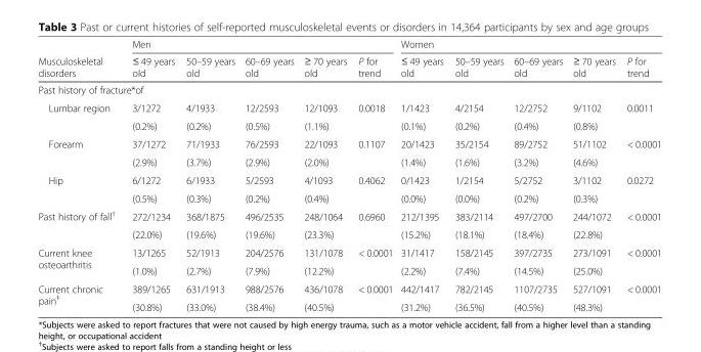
<table><thead><tr><td rowspan="2">Musculoskeletal disorders</td><td colspan="5">Men</td><td colspan="5">Women</td></tr><tr><td>≤ 49 years old</td><td>50–59 years old</td><td>60–69 years old</td><td>≥ 70 years old</td><td>P for trend</td><td>≤ 49 years old</td><td>50–59 years old</td><td>60–69 years old</td><td>≥ 70 years old</td><td>P for trend</td></tr></thead><tbody><tr><td colspan="11">Past history of fracture*of</td></tr><tr><td rowspan="2">Lumbar region</td><td>3/1272</td><td>4/1933</td><td>12/2593</td><td>12/1093</td><td>0.0018</td><td>1/1423</td><td>4/2154</td><td>12/2752</td><td>9/1102</td><td>0.0011</td></tr><tr><td>(0.2%)</td><td>(0.2%)</td><td>(0.5%)</td><td>(1.1%)</td><td></td><td>(0.1%)</td><td>(0.2%)</td><td>(0.4%)</td><td>(0.8%)</td><td></td></tr><tr><td rowspan="2">Forearm</td><td>37/1272</td><td>71/1933</td><td>76/2593</td><td>22/1093</td><td>0.1107</td><td>20/1423</td><td>35/2154</td><td>89/2752</td><td>51/1102</td><td>&lt; 0.0001</td></tr><tr><td>(2.9%)</td><td>(3.7%)</td><td>(2.9%)</td><td>(2.0%)</td><td></td><td>(1.4%)</td><td>(1.6%)</td><td>(3.2%)</td><td>(4.6%)</td><td></td></tr><tr><td rowspan="2">Hip</td><td>6/1272</td><td>6/1933</td><td>5/2593</td><td>4/1093</td><td>0.4062</td><td>0/1423</td><td>1/2154</td><td>5/2752</td><td>3/1102</td><td>0.0272</td></tr><tr><td>(0.5%)</td><td>(0.3%)</td><td>(0.2%)</td><td>(0.4%)</td><td></td><td>(0.0%)</td><td>(0.0%)</td><td>(0.2%)</td><td>(0.3%)</td><td></td></tr><tr><td rowspan="2">Past history of fall<sup>†</sup></td><td>272/1234</td><td>368/1875</td><td>496/2535</td><td>248/1064</td><td>0.6960</td><td>212/1395</td><td>383/2114</td><td>497/2700</td><td>244/1072</td><td>&lt; 0.0001</td></tr><tr><td>(22.0%)</td><td>(19.6%)</td><td>(19.6%)</td><td>(23.3%)</td><td></td><td>(15.2%)</td><td>(18.1%)</td><td>(18.4%)</td><td>(22.8%)</td><td></td></tr><tr><td rowspan="2">Current knee osteoarthritis</td><td>13/1265</td><td>52/1913</td><td>204/2576</td><td>131/1078</td><td>&lt; 0.0001</td><td>31/1417</td><td>158/2145</td><td>397/2735</td><td>273/1091</td><td>&lt; 0.0001</td></tr><tr><td>(1.0%)</td><td>(2.7%)</td><td>(7.9%)</td><td>(12.2%)</td><td></td><td>(2.2%)</td><td>(7.4%)</td><td>(14.5%)</td><td>(25.0%)</td><td></td></tr><tr><td rowspan="2">Current chronic pain<sup>‡</sup></td><td>389/1265</td><td>631/1913</td><td>988/2576</td><td>436/1078</td><td>&lt; 0.0001</td><td>442/1417</td><td>782/2145</td><td>1107/2735</td><td>527/1091</td><td>&lt; 0.0001</td></tr><tr><td>(30.8%)</td><td>(33.0%)</td><td>(38.4%)</td><td>(40.5%)</td><td></td><td>(31.2%)</td><td>(36.5%)</td><td>(40.5%)</td><td>(48.3%)</td><td></td></tr></tbody></table>